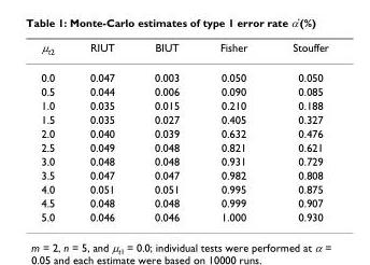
<table><thead><tr><td>μ<sub>t2</sub></td><td>RIUT</td><td>BIUT</td><td>Fisher</td><td>Stouffer</td></tr></thead><tbody><tr><td>0.0</td><td>0.047</td><td>0.003</td><td>0.050</td><td>0.050</td></tr><tr><td>0.5</td><td>0.044</td><td>0.006</td><td>0.090</td><td>0.085</td></tr><tr><td>1.0</td><td>0.035</td><td>0.015</td><td>0.210</td><td>0.188</td></tr><tr><td>1.5</td><td>0.035</td><td>0.027</td><td>0.405</td><td>0.327</td></tr><tr><td>2.0</td><td>0.040</td><td>0.039</td><td>0.632</td><td>0.476</td></tr><tr><td>2.5</td><td>0.049</td><td>0.048</td><td>0.821</td><td>0.621</td></tr><tr><td>3.0</td><td>0.048</td><td>0.048</td><td>0.931</td><td>0.729</td></tr><tr><td>3.5</td><td>0.047</td><td>0.047</td><td>0.982</td><td>0.808</td></tr><tr><td>4.0</td><td>0.051</td><td>0.051</td><td>0.995</td><td>0.875</td></tr><tr><td>4.5</td><td>0.048</td><td>0.048</td><td>0.999</td><td>0.907</td></tr><tr><td>5.0</td><td>0.046</td><td>0.046</td><td>1.000</td><td>0.930</td></tr></tbody></table>